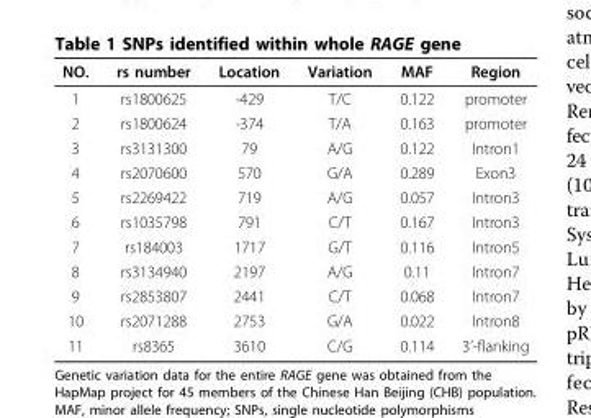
<table><thead><tr><td>NO.</td><td>rs number</td><td>Location</td><td>Variation</td><td>MAF</td><td>Region</td></tr></thead><tbody><tr><td>1</td><td>rs1800625</td><td>-429</td><td>T/C</td><td>0.122</td><td>promoter</td></tr><tr><td>2</td><td>rs1800624</td><td>-374</td><td>T/A</td><td>0.163</td><td>promoter</td></tr><tr><td>3</td><td>rs3131300</td><td>79</td><td>A/G</td><td>0.122</td><td>Intron1</td></tr><tr><td>4</td><td>rs2070600</td><td>570</td><td>G/A</td><td>0.289</td><td>Exon3</td></tr><tr><td>5</td><td>rs2269422</td><td>719</td><td>A/G</td><td>0.057</td><td>Intron3</td></tr><tr><td>6</td><td>rs1035798</td><td>791</td><td>C/T</td><td>0.167</td><td>Intron3</td></tr><tr><td>7</td><td>rs184003</td><td>1717</td><td>G/T</td><td>0.116</td><td>Intron5</td></tr><tr><td>8</td><td>rs3134940</td><td>2197</td><td>A/G</td><td>0.11</td><td>Intron7</td></tr><tr><td>9</td><td>rs2853807</td><td>2441</td><td>C/T</td><td>0.068</td><td>Intron7</td></tr><tr><td>10</td><td>rs2071288</td><td>2753</td><td>G/A</td><td>0.022</td><td>Intron8</td></tr><tr><td>11</td><td>rs8365</td><td>3610</td><td>C/G</td><td>0.114</td><td>3’-flanking</td></tr></tbody></table>